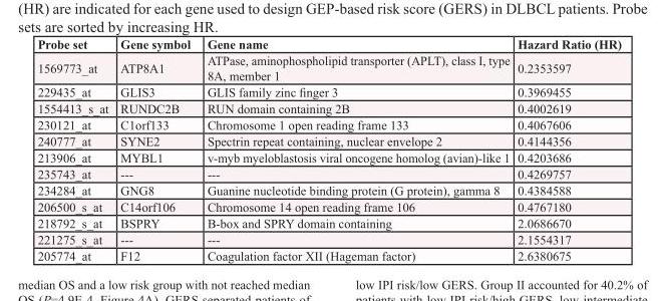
<table><thead><tr><td>Probe set</td><td>Gene symbol</td><td>Gene name</td><td>Hazard Ratio (HR)</td></tr></thead><tbody><tr><td>1569773_at</td><td>ATP8A1</td><td>ATPase, aminophospholipid transporter (APLT), class I, type 8A, member 1</td><td>0.2353597</td></tr><tr><td>229435_at</td><td>GLIS3</td><td>GLIS family zinc finger 3</td><td>0.3969455</td></tr><tr><td>1554413_s_at</td><td>RUNDC2B</td><td>RUN domain containing 2B</td><td>0.4002619</td></tr><tr><td>230121_at</td><td>C1orf133</td><td>Chromosome 1 open reading frame 133</td><td>0.4067606</td></tr><tr><td>240777_at</td><td>SYNE2</td><td>Spectrin repeat containing, nuclear envelope 2</td><td>0.4144356</td></tr><tr><td>213906_at</td><td>MYBL1</td><td>v-myb myeloblastosis viral oncogene homolog (avian)-like 1</td><td>0.4203686</td></tr><tr><td>235743_at</td><td>---</td><td>---</td><td>0.4269757</td></tr><tr><td>234284_at</td><td>GNG8</td><td>Guanine nucleotide binding protein (G protein), gamma 8</td><td>0.4384588</td></tr><tr><td>206500_s_at</td><td>C14orf106</td><td>Chromosome 14 open reading frame 106</td><td>0.4767180</td></tr><tr><td>218792_s_at</td><td>BSPRY</td><td>B-box and SPRY domain containing</td><td>2.0686670</td></tr><tr><td>221275_s_at</td><td>---</td><td>---</td><td>2.1554317</td></tr><tr><td>205774_at</td><td>F12</td><td>Coagulation factor XII (Hageman factor)</td><td>2.6380675</td></tr></tbody></table>